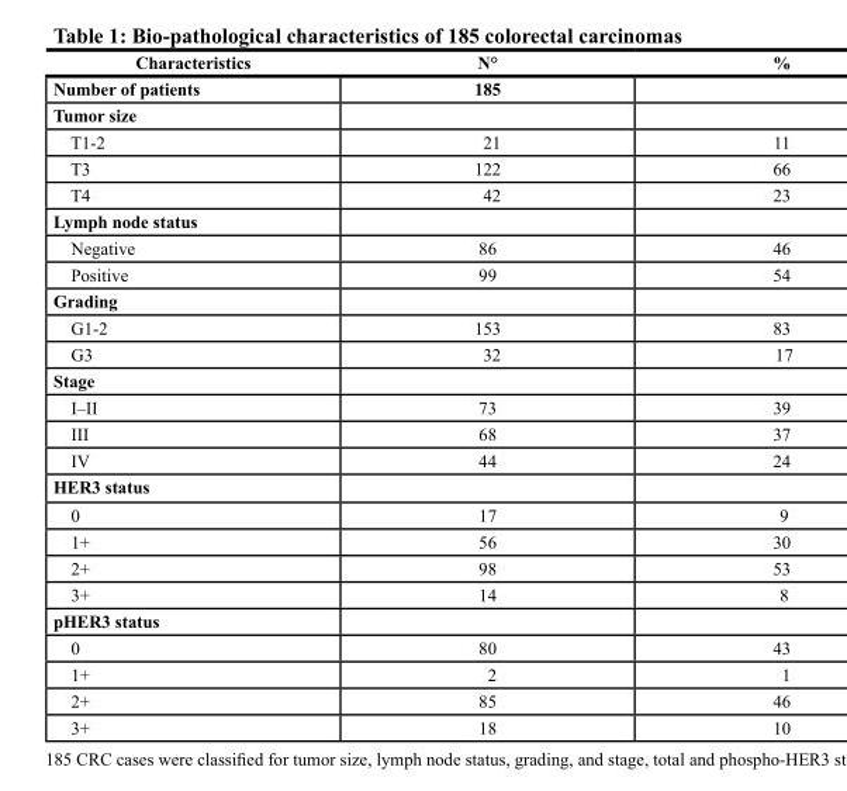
<table><thead><tr><td>Characteristics</td><td>N°</td><td>%</td></tr></thead><tbody><tr><td>Number of patients</td><td>185</td><td></td></tr><tr><td colspan="3">Tumor size</td></tr><tr><td>T1-2</td><td>21</td><td>11</td></tr><tr><td>T3</td><td>122</td><td>66</td></tr><tr><td>T4</td><td>42</td><td>23</td></tr><tr><td colspan="3">Lymph node status</td></tr><tr><td>Negative</td><td>86</td><td>46</td></tr><tr><td>Positive</td><td>99</td><td>54</td></tr><tr><td colspan="3">Grading</td></tr><tr><td>G1-2</td><td>153</td><td>83</td></tr><tr><td>G3</td><td>32</td><td>17</td></tr><tr><td colspan="3">Stage</td></tr><tr><td>I–II</td><td>73</td><td>39</td></tr><tr><td>III</td><td>68</td><td>37</td></tr><tr><td>IV</td><td>44</td><td>24</td></tr><tr><td colspan="3">HER3 status</td></tr><tr><td>0</td><td>17</td><td>9</td></tr><tr><td>1+</td><td>56</td><td>30</td></tr><tr><td>2+</td><td>98</td><td>53</td></tr><tr><td>3+</td><td>14</td><td>8</td></tr><tr><td colspan="3">pHER3 status</td></tr><tr><td>0</td><td>80</td><td>43</td></tr><tr><td>1+</td><td>2</td><td>1</td></tr><tr><td>2+</td><td>85</td><td>46</td></tr><tr><td>3+</td><td>18</td><td>10</td></tr></tbody></table>